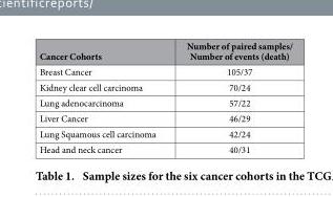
<table><thead><tr><td>Cancer Cohorts</td><td>Number of paired samples/ Number of events (death)</td></tr></thead><tbody><tr><td>Breast Cancer</td><td>105/37</td></tr><tr><td>Kidney clear cell carcinoma</td><td>70/24</td></tr><tr><td>Lung adenocarcinoma</td><td>57/22</td></tr><tr><td>Liver Cancer</td><td>46/29</td></tr><tr><td>Lung Squamous cell carcinoma</td><td>42/24</td></tr><tr><td>Head and neck cancer</td><td>40/31</td></tr></tbody></table>